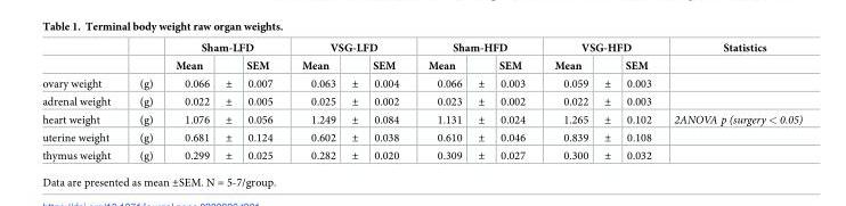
<table><thead><tr><td rowspan="2"></td><td rowspan="2"></td><td colspan="3">Sham-LFD</td><td colspan="3">VSG-LFD</td><td colspan="3">Sham-HFD</td><td colspan="3">VSG-HFD</td><td rowspan="2">Statistics</td></tr><tr><td>Mean</td><td></td><td>SEM</td><td>Mean</td><td></td><td>SEM</td><td>Mean</td><td></td><td>SEM</td><td>Mean</td><td></td><td>SEM</td></tr></thead><tbody><tr><td>ovary weight</td><td>(g)</td><td>0.066</td><td>±</td><td>0.007</td><td>0.063</td><td>±</td><td>0.004</td><td>0.066</td><td>±</td><td>0.003</td><td>0.059</td><td>±</td><td>0.003</td><td></td></tr><tr><td>adrenal weight</td><td>(g)</td><td>0.022</td><td>±</td><td>0.005</td><td>0.025</td><td>±</td><td>0.002</td><td>0.023</td><td>±</td><td>0.002</td><td>0.022</td><td>±</td><td>0.003</td><td></td></tr><tr><td>heart weight</td><td>(g)</td><td>1.076</td><td>±</td><td>0.056</td><td>1.249</td><td>±</td><td>0.084</td><td>1.131</td><td>±</td><td>0.024</td><td>1.265</td><td>±</td><td>0.102</td><td>2ANOVA p (surgery &lt; 0.05)</td></tr><tr><td>uterine weight</td><td>(g)</td><td>0.681</td><td>±</td><td>0.124</td><td>0.602</td><td>±</td><td>0.038</td><td>0.610</td><td>±</td><td>0.046</td><td>0.839</td><td>±</td><td>0.108</td><td></td></tr><tr><td>thymus weight</td><td>(g)</td><td>0.299</td><td>±</td><td>0.025</td><td>0.282</td><td>±</td><td>0.020</td><td>0.309</td><td>±</td><td>0.027</td><td>0.300</td><td>±</td><td>0.032</td><td></td></tr></tbody></table>